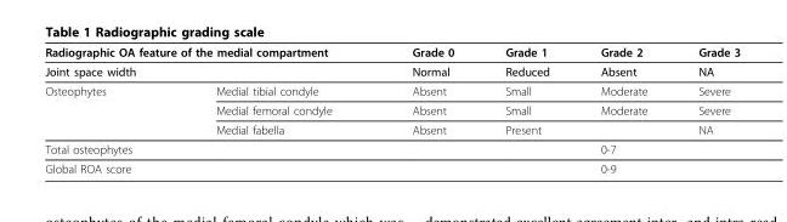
<table><thead><tr><td colspan="2">Radiographic OA feature of the medial compartment</td><td rowspan="2">Grade 0 Normal</td><td rowspan="2">Grade 1 Reduced</td><td rowspan="2">Grade 2 Absent</td><td rowspan="2">Grade 3 NA</td></tr><tr><td>Joint space width</td><td></td></tr></thead><tbody><tr><td rowspan="3">Osteophytes</td><td>Medial tibial condyle</td><td>Absent</td><td>Small</td><td>Moderate</td><td>Severe</td></tr><tr><td>Medial femoral condyle</td><td>Absent</td><td>Small</td><td>Moderate</td><td>Severe</td></tr><tr><td>Medial fabella</td><td>Absent</td><td>Present</td><td></td><td>NA</td></tr><tr><td>Total osteophytes</td><td></td><td></td><td></td><td>0-7</td><td></td></tr><tr><td>Global ROA score</td><td></td><td></td><td></td><td>0-9</td><td></td></tr></tbody></table>